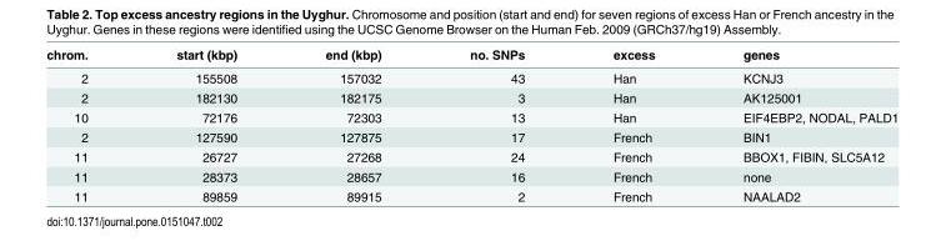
<table><thead><tr><td>chrom.</td><td>start (kbp)</td><td>end (kbp)</td><td>no. SNPs</td><td>excess</td><td>genes</td></tr></thead><tbody><tr><td>2</td><td>155508</td><td>157032</td><td>43</td><td>Han</td><td>KCNJ3</td></tr><tr><td>2</td><td>182130</td><td>182175</td><td>3</td><td>Han</td><td>AK125001</td></tr><tr><td>10</td><td>72176</td><td>72303</td><td>13</td><td>Han</td><td>EIF4EBP2, NODAL, PALD1</td></tr><tr><td>2</td><td>127590</td><td>127875</td><td>17</td><td>French</td><td>BIN1</td></tr><tr><td>11</td><td>26727</td><td>27268</td><td>24</td><td>French</td><td>BBOX1, FIBIN, SLC5A12</td></tr><tr><td>11</td><td>28373</td><td>28657</td><td>16</td><td>French</td><td>none</td></tr><tr><td>11</td><td>89859</td><td>89915</td><td>2</td><td>French</td><td>NAALAD2</td></tr></tbody></table>